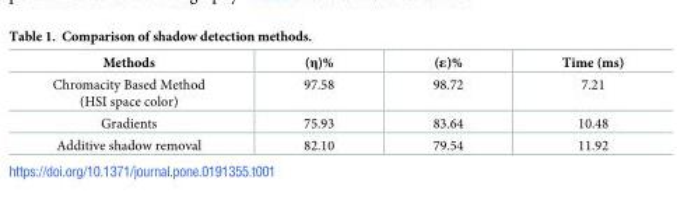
<table><thead><tr><td>Methods</td><td>(η)%</td><td>(ε)%</td><td>Time (ms)</td></tr></thead><tbody><tr><td>Chromacity Based Method (HSI space color)</td><td>97.58</td><td>98.72</td><td>7.21</td></tr><tr><td>Gradients</td><td>75.93</td><td>83.64</td><td>10.48</td></tr><tr><td>Additive shadow removal</td><td>82.10</td><td>79.54</td><td>11.92</td></tr></tbody></table>